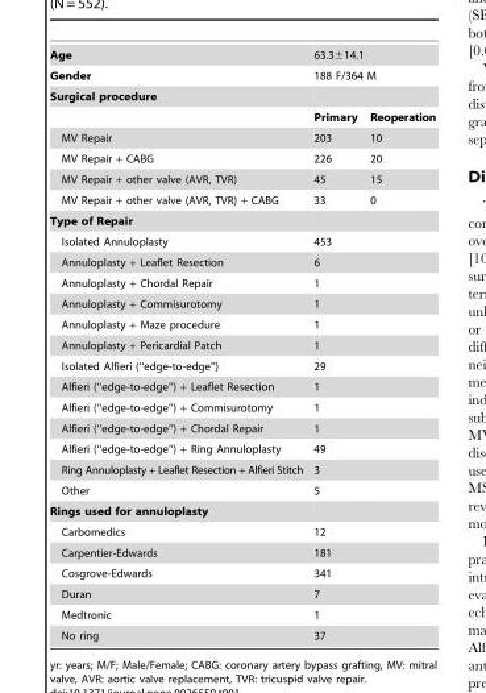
<table><tbody><tr><td>Age</td><td colspan="2">63.3±14.1</td></tr><tr><td>Gender</td><td colspan="2">188 F/364 M</td></tr><tr><td colspan="3">Surgical procedure</td></tr><tr><td></td><td>Primary</td><td>Reoperation</td></tr><tr><td>MV Repair</td><td>203</td><td>10</td></tr><tr><td>MV Repair + CABG</td><td>226</td><td>20</td></tr><tr><td>MV Repair + other valve (AVR, TVR)</td><td>45</td><td>15</td></tr><tr><td>MV Repair + other valve (AVR, TVR) + CABG</td><td>33</td><td>0</td></tr><tr><td colspan="3">Type of Repair</td></tr><tr><td>Isolated Annuloplasty</td><td colspan="2">453</td></tr><tr><td>Annuloplasty + Leaflet Resection</td><td colspan="2">6</td></tr><tr><td>Annuloplasty + Chordal Repair</td><td colspan="2">1</td></tr><tr><td>Annuloplasty + Commisurotomy</td><td colspan="2">1</td></tr><tr><td>Annuloplasty + Maze procedure</td><td colspan="2">1</td></tr><tr><td>Annuloplasty + Pericardial Patch</td><td colspan="2">1</td></tr><tr><td>Isolated Alfieri (‘‘edge-to-edge’’)</td><td colspan="2">29</td></tr><tr><td>Alfieri (‘‘edge-to-edge’’) + Leaflet Resection</td><td colspan="2">1</td></tr><tr><td>Alfieri (‘‘edge-to-edge’’) + Commisurotomy</td><td colspan="2">1</td></tr><tr><td>Alfieri (‘‘edge-to-edge’’) + Chordal Repair</td><td colspan="2">1</td></tr><tr><td>Alfieri (‘‘edge-to-edge’’) + Ring Annuloplasty</td><td colspan="2">49</td></tr><tr><td>Ring Annuloplasty + Leaflet Resection + Alfieri Stitch</td><td colspan="2">3</td></tr><tr><td>Other</td><td colspan="2">5</td></tr><tr><td colspan="3">Rings used for annuloplasty</td></tr><tr><td>Carbomedics</td><td colspan="2">12</td></tr><tr><td>Carpentier-Edwards</td><td colspan="2">181</td></tr><tr><td>Cosgrove-Edwards</td><td colspan="2">341</td></tr><tr><td>Duran</td><td colspan="2">7</td></tr><tr><td>Medtronic</td><td colspan="2">1</td></tr><tr><td>No ring</td><td colspan="2">37</td></tr></tbody></table>